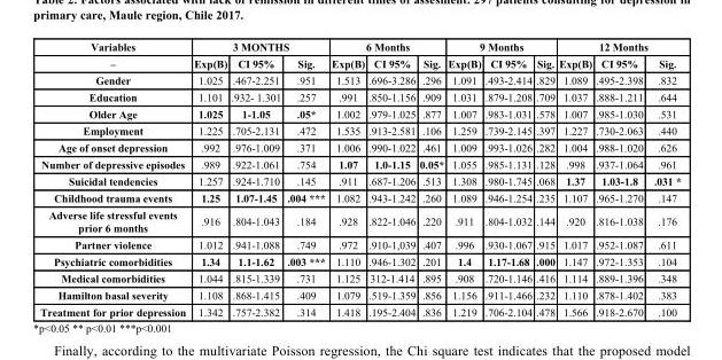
<table><thead><tr><td rowspan="2">Variables –</td><td colspan="3">3 MONTHS</td><td colspan="3">6 Months</td><td colspan="3">9 Months</td><td colspan="3">12 Months</td></tr><tr><td>Exp(B)</td><td>CI 95%</td><td>Sig.</td><td>Exp(B)</td><td>CI 95%</td><td>Sig.</td><td>Exp(B)</td><td>CI 95%</td><td>Sig.</td><td>Exp(B)</td><td>CI 95%</td><td>Sig.</td></tr></thead><tbody><tr><td>Gender</td><td>1.025</td><td>.467-2.251</td><td>.951</td><td>1.513</td><td>.696-3.286</td><td>.296</td><td>1.091</td><td>.493-2.414</td><td>.829</td><td>1.089</td><td>.495-2.398</td><td>.832</td></tr><tr><td>Education</td><td>1.101</td><td>.932- 1.301</td><td>.257</td><td>.991</td><td>.850-1.156</td><td>.909</td><td>1.031</td><td>.879-1.208</td><td>.709</td><td>1.037</td><td>.888-1.211</td><td>.644</td></tr><tr><td>Older Age</td><td>1.025</td><td>1-1.05</td><td>.05*</td><td>1.002</td><td>.979-1.025</td><td>.877</td><td>1.007</td><td>.983-1.031</td><td>.578</td><td>1.007</td><td>.985-1.030</td><td>.531</td></tr><tr><td>Employment</td><td>1.225</td><td>.705-2.131</td><td>.472</td><td>1.535</td><td>.913-2.581</td><td>.106</td><td>1.259</td><td>.739-2.145</td><td>.397</td><td>1.227</td><td>.730-2.063</td><td>.440</td></tr><tr><td>Age of onset depression</td><td>.992</td><td>.976-1.009</td><td>.371</td><td>1.006</td><td>.990-1.022</td><td>.461</td><td>1.009</td><td>.993-1.026</td><td>.282</td><td>1.004</td><td>.988-1.020</td><td>.626</td></tr><tr><td>Number of depressive episodes</td><td>.989</td><td>.922-1.061</td><td>.754</td><td>1.07</td><td>1.0-1.15</td><td>0.05*</td><td>1.055</td><td>.985-1.131</td><td>.128</td><td>.998</td><td>.937-1.064</td><td>.961</td></tr><tr><td>Suicidal tendencies</td><td>1.257</td><td>.924-1.710</td><td>.145</td><td>.911</td><td>.687-1.206</td><td>.513</td><td>1.308</td><td>.980-1.745</td><td>.068</td><td>1.37</td><td>1.03-1.8</td><td>.031 *</td></tr><tr><td>Childhood trauma events</td><td>1.25</td><td>1.07-1.45</td><td>.004 ***</td><td>1.082</td><td>.943-1.242</td><td>.260</td><td>1.089</td><td>.946-1.254</td><td>.235</td><td>1.107</td><td>.965-1.270</td><td>.147</td></tr><tr><td>Adverse life stressful events prior 6 months</td><td>.916</td><td>.804-1.043</td><td>.184</td><td>.928</td><td>.822-1.046</td><td>.220</td><td>.911</td><td>.804-1.032</td><td>.144</td><td>.920</td><td>.816-1.038</td><td>.176</td></tr><tr><td>Partner violence</td><td>1.012</td><td>.941-1.088</td><td>.749</td><td>.972</td><td>.910-1,039</td><td>.407</td><td>.996</td><td>.930-1.067</td><td>.915</td><td>1.017</td><td>.952-1.087</td><td>.611</td></tr><tr><td>Psychiatric comorbidities</td><td>1.34</td><td>1.1-1.62</td><td>.003 ***</td><td>1.110</td><td>.946-1.302</td><td>.201</td><td>1.4</td><td>1.17-1.68</td><td>.000</td><td>1.147</td><td>.972-1.353</td><td>.104</td></tr><tr><td>Medical comorbidities</td><td>1.044</td><td>.815-1.339</td><td>.731</td><td>1.125</td><td>312-1.414</td><td>.895</td><td>.908</td><td>.720-1.146</td><td>.416</td><td>1.114</td><td>.889-1.396</td><td>.348</td></tr><tr><td>Hamilton basal severity</td><td>1.108</td><td>.868-1.415</td><td>.409</td><td>1.079</td><td>.519-1.359</td><td>.856</td><td>1.156</td><td>.911-1.466</td><td>.232</td><td>1.110</td><td>.878-1.402</td><td>.383</td></tr><tr><td>Treatment for prior depression</td><td>1.342</td><td>.757-2.382</td><td>.314</td><td>1.418</td><td>.195-2.404</td><td>.836</td><td>1.219</td><td>.706-2.104</td><td>.478</td><td>1.566</td><td>.918-2.670</td><td>.100</td></tr></tbody></table>